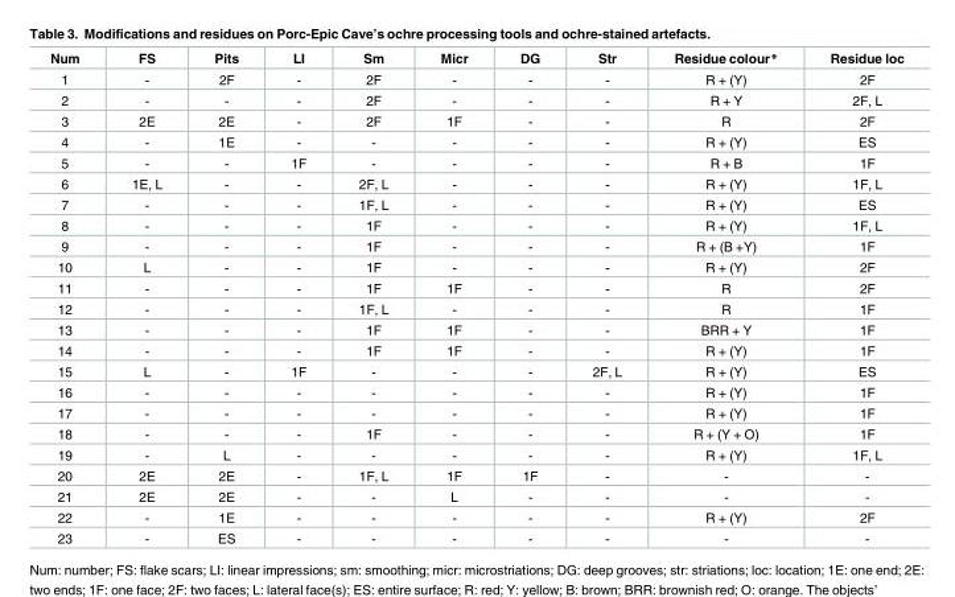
<table><thead><tr><td>Num</td><td>FS</td><td>Pits</td><td>LI</td><td>Sm</td><td>Micr</td><td>DG</td><td>Str</td><td>Residue colour*</td><td>Residue loc</td></tr></thead><tbody><tr><td>1</td><td>-</td><td>2F</td><td>-</td><td>2F</td><td>-</td><td>-</td><td>-</td><td>R + (Y)</td><td>2F</td></tr><tr><td>2</td><td>-</td><td>-</td><td>-</td><td>2F</td><td>-</td><td>-</td><td>-</td><td>R + Y</td><td>2F, L</td></tr><tr><td>3</td><td>2E</td><td>2E</td><td>-</td><td>2F</td><td>1F</td><td>-</td><td>-</td><td>R</td><td>2F</td></tr><tr><td>4</td><td>-</td><td>1E</td><td>-</td><td>-</td><td>-</td><td>-</td><td>-</td><td>R + (Y)</td><td>ES</td></tr><tr><td>5</td><td>-</td><td>-</td><td>1F</td><td>-</td><td>-</td><td>-</td><td>-</td><td>R + B</td><td>1F</td></tr><tr><td>6</td><td>1E, L</td><td>-</td><td>-</td><td>2F, L</td><td>-</td><td>-</td><td>-</td><td>R + (Y)</td><td>1F, L</td></tr><tr><td>7</td><td>-</td><td>-</td><td>-</td><td>1F, L</td><td>-</td><td>-</td><td>-</td><td>R + (Y)</td><td>ES</td></tr><tr><td>8</td><td>-</td><td>-</td><td>-</td><td>1F</td><td>-</td><td>-</td><td>-</td><td>R + (Y)</td><td>1F, L</td></tr><tr><td>9</td><td>-</td><td>-</td><td>-</td><td>1F</td><td>-</td><td>-</td><td>-</td><td>R + (B +Y)</td><td>1F</td></tr><tr><td>10</td><td>L</td><td>-</td><td>-</td><td>1F</td><td>-</td><td>-</td><td>-</td><td>R + (Y)</td><td>2F</td></tr><tr><td>11</td><td>-</td><td>-</td><td>-</td><td>1F</td><td>1F</td><td>-</td><td>-</td><td>R</td><td>2F</td></tr><tr><td>12</td><td>-</td><td>-</td><td>-</td><td>1F, L</td><td>-</td><td>-</td><td>-</td><td>R</td><td>1F</td></tr><tr><td>13</td><td>-</td><td>-</td><td>-</td><td>1F</td><td>1F</td><td>-</td><td>-</td><td>BRR + Y</td><td>1F</td></tr><tr><td>14</td><td>-</td><td>-</td><td>-</td><td>1F</td><td>1F</td><td>-</td><td>-</td><td>R + (Y)</td><td>1F</td></tr><tr><td>15</td><td>L</td><td>-</td><td>1F</td><td>-</td><td>-</td><td>-</td><td>2F, L</td><td>R + (Y)</td><td>ES</td></tr><tr><td>16</td><td>-</td><td>-</td><td>-</td><td>-</td><td>-</td><td>-</td><td>-</td><td>R + (Y)</td><td>1F</td></tr><tr><td>17</td><td>-</td><td>-</td><td>-</td><td>-</td><td>-</td><td>-</td><td>-</td><td>R + (Y)</td><td>1F</td></tr><tr><td>18</td><td>-</td><td>-</td><td>-</td><td>1F</td><td>-</td><td>-</td><td>-</td><td>R + (Y + O)</td><td>1F</td></tr><tr><td>19</td><td>-</td><td>L</td><td>-</td><td>-</td><td>-</td><td>-</td><td>-</td><td>R + (Y)</td><td>1F, L</td></tr><tr><td>20</td><td>2E</td><td>2E</td><td>-</td><td>1F, L</td><td>1F</td><td>1F</td><td>-</td><td>-</td><td>-</td></tr><tr><td>21</td><td>2E</td><td>2E</td><td>-</td><td>-</td><td>L</td><td>-</td><td>-</td><td>-</td><td>-</td></tr><tr><td>22</td><td>-</td><td>1E</td><td>-</td><td>-</td><td>-</td><td>-</td><td>-</td><td>R + (Y)</td><td>2F</td></tr><tr><td>23</td><td>-</td><td>ES</td><td>-</td><td>-</td><td>-</td><td>-</td><td>-</td><td>-</td><td>-</td></tr></tbody></table>